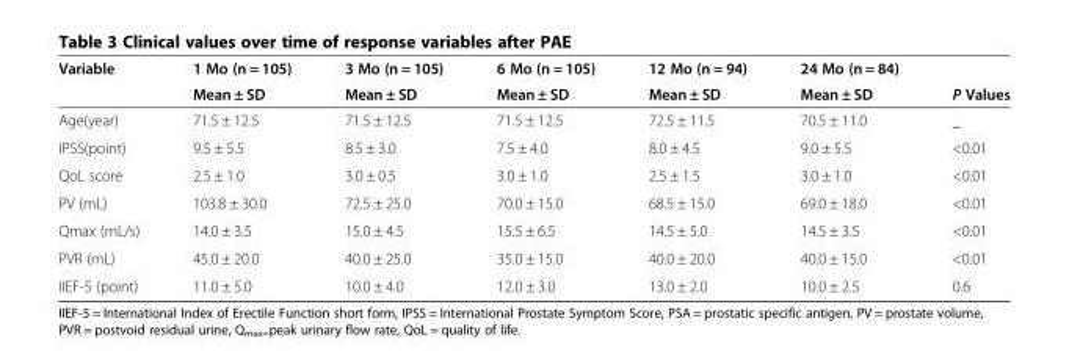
<table><thead><tr><td rowspan="2">Variable</td><td rowspan="2">1 Mo (n = 105) Mean ± SD</td><td rowspan="2">3 Mo (n = 105) Mean ± SD</td><td rowspan="2">6 Mo (n = 105) Mean ± SD</td><td rowspan="2">12 Mo (n = 94) Mean ± SD</td><td rowspan="2">24 Mo (n = 84) Mean ± SD</td><td rowspan="2">P Values</td></tr><tr></tr></thead><tbody><tr><td>Age(year)</td><td>71.5 ± 12.5</td><td>71.5 ± 12.5</td><td>71.5 ± 12.5</td><td>72.5 ± 11.5</td><td>70.5 ± 11.0</td><td>_</td></tr><tr><td>IPSS(point)</td><td>9.5 ± 5.5</td><td>8.5 ± 3.0</td><td>7.5 ± 4.0</td><td>8.0 ± 4.5</td><td>9.0 ± 5.5</td><td>&lt;0.01</td></tr><tr><td>QoL score</td><td>2.5 ± 1.0</td><td>3.0 ± 0.5</td><td>3.0 ± 1.0</td><td>2.5 ± 1.5</td><td>3.0 ± 1.0</td><td>&lt;0.01</td></tr><tr><td>PV (mL)</td><td>103.8 ± 30.0</td><td>72.5 ± 25.0</td><td>70.0 ± 15.0</td><td>68.5 ± 15.0</td><td>69.0 ± 18.0</td><td>&lt;0.01</td></tr><tr><td>Qmax (mL/s)</td><td>14.0 ± 3.5</td><td>15.0 ± 4.5</td><td>15.5 ± 6.5</td><td>14.5 ± 5.0</td><td>14.5 ± 3.5</td><td>&lt;0.01</td></tr><tr><td>PVR (mL)</td><td>45.0 ± 20.0</td><td>40.0 ± 25.0</td><td>35.0 ± 15.0</td><td>40.0 ± 20.0</td><td>40.0 ± 15.0</td><td>&lt;0.01</td></tr><tr><td>IIEF-5 (point)</td><td>11.0 ± 5.0</td><td>10.0 ± 4.0</td><td>12.0 ± 3.0</td><td>13.0 ± 2.0</td><td>10.0 ± 2.5</td><td>0.6</td></tr></tbody></table>